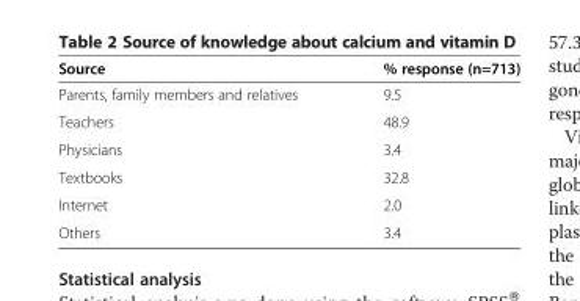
<table><thead><tr><td>Source</td><td>% response (n=713)</td></tr></thead><tbody><tr><td>Parents, family members and relatives</td><td>9.5</td></tr><tr><td>Teachers</td><td>48.9</td></tr><tr><td>Physicians</td><td>3.4</td></tr><tr><td>Textbooks</td><td>32.8</td></tr><tr><td>Internet</td><td>2.0</td></tr><tr><td>Others</td><td>3.4</td></tr></tbody></table>